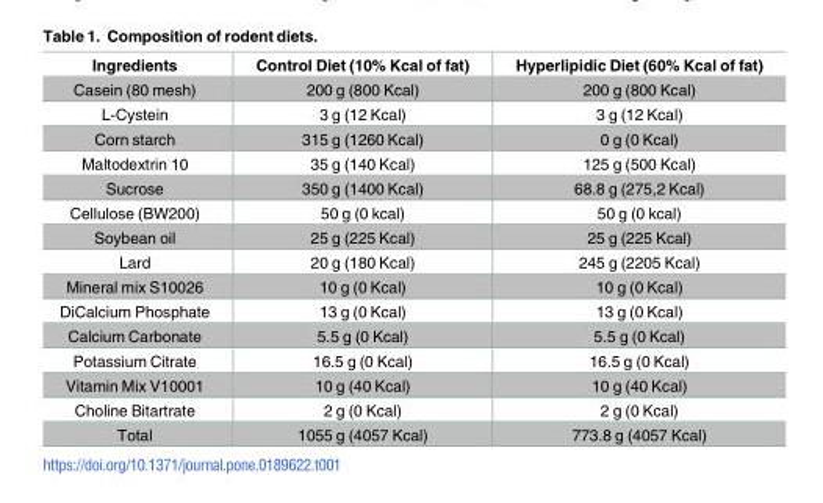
<table><thead><tr><td>Ingredients</td><td>Control Diet (10% Kcal of fat)</td><td>Hyperlipidic Diet (60% Kcal of fat)</td></tr></thead><tbody><tr><td>Casein (80 mesh)</td><td>200 g (800 Kcal)</td><td>200 g (800 Kcal)</td></tr><tr><td>L-Cystein</td><td>3 g (12 Kcal)</td><td>3 g (12 Kcal)</td></tr><tr><td>Corn starch</td><td>315 g (1260 Kcal)</td><td>0 g (0 Kcal)</td></tr><tr><td>Maltodextrin 10</td><td>35 g (140 Kcal)</td><td>125 g (500 Kcal)</td></tr><tr><td>Sucrose</td><td>350 g (1400 Kcal)</td><td>68.8 g (275,2 Kcal)</td></tr><tr><td>Cellulose (BW200)</td><td>50 g (0 kcal)</td><td>50 g (0 kcal)</td></tr><tr><td>Soybean oil</td><td>25 g (225 Kcal)</td><td>25 g (225 Kcal)</td></tr><tr><td>Lard</td><td>20 g (180 Kcal)</td><td>245 g (2205 Kcal)</td></tr><tr><td>Mineral mix S10026</td><td>10 g (0 Kcal)</td><td>10 g (0 Kcal)</td></tr><tr><td>DiCalcium Phosphate</td><td>13 g (0 Kcal)</td><td>13 g (0 Kcal)</td></tr><tr><td>Calcium Carbonate</td><td>5.5 g (0 Kcal)</td><td>5.5 g (0 Kcal)</td></tr><tr><td>Potassium Citrate</td><td>16.5 g (0 Kcal)</td><td>16.5 g (0 Kcal)</td></tr><tr><td>Vitamin Mix V10001</td><td>10 g (40 Kcal)</td><td>10 g (40 Kcal)</td></tr><tr><td>Choline Bitartrate</td><td>2 g (0 Kcal)</td><td>2 g (0 Kcal)</td></tr><tr><td>Total</td><td>1055 g (4057 Kcal)</td><td>773.8 g (4057 Kcal)</td></tr></tbody></table>